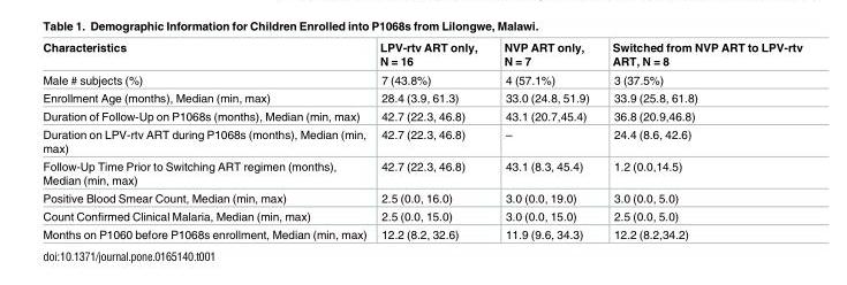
<table><thead><tr><td>Characteristics</td><td>LPV-rtv ART only, N = 16</td><td>NVP ART only, N = 7</td><td>Switched from NVP ART to LPV-rtv ART, N = 8</td></tr></thead><tbody><tr><td>Male # subjects (%)</td><td>7 (43.8%)</td><td>4 (57.1%)</td><td>3 (37.5%)</td></tr><tr><td>Enrollment Age (months), Median (min, max)</td><td>28.4 (3.9, 61.3)</td><td>33.0 (24.8, 51.9)</td><td>33.9 (25.8, 61.8)</td></tr><tr><td>Duration of Follow-Up on P1068s (months), Median (min, max)</td><td>42.7 (22.3, 46.8)</td><td>43.1 (20.7,45.4)</td><td>36.8 (20.9,46.8)</td></tr><tr><td>Duration on LPV-rtv ART during P1068s (months), Median (min, max)</td><td>42.7 (22.3, 46.8)</td><td>–</td><td>24.4 (8.6, 42.6)</td></tr><tr><td>Follow-Up Time Prior to Switching ART regimen (months), Median (min, max)</td><td>42.7 (22.3, 46.8)</td><td>43.1 (8.3, 45.4)</td><td>1.2 (0.0,14.5)</td></tr><tr><td>Positive Blood Smear Count, Median (min, max)</td><td>2.5 (0.0, 16.0)</td><td>3.0 (0.0, 19.0)</td><td>3.0 (0.0, 5.0)</td></tr><tr><td>Count Confirmed Clinical Malaria, Median (min, max)</td><td>2.5 (0.0, 15.0)</td><td>3.0 (0.0, 15.0)</td><td>2.5 (0.0, 5.0)</td></tr><tr><td>Months on P1060 before P1068s enrollment, Median (min, max)</td><td>12.2 (8.2, 32.6)</td><td>11.9 (9.6, 34.3)</td><td>12.2 (8.2,34.2)</td></tr></tbody></table>